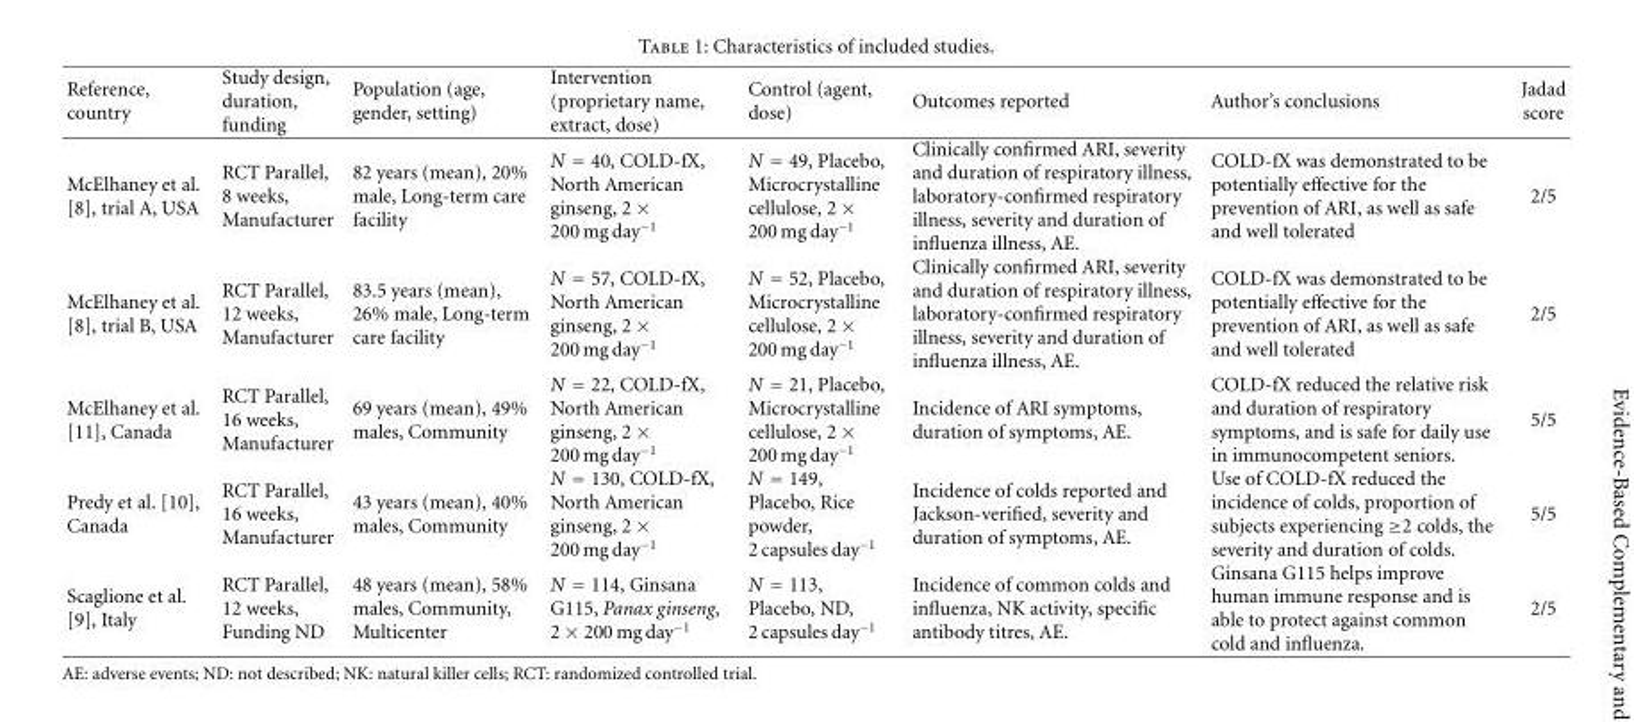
<table><thead><tr><td>Reference, country</td><td>Study design, duration, funding</td><td>Population (age, gender, setting)</td><td>Intervention (proprietary name, extract, dose)</td><td>Control (agent, dose)</td><td>Outcomes reported</td><td>Author’s conclusions</td><td>Jadad score</td></tr></thead><tbody><tr><td>McElhaney et al. [8], trial A, USA</td><td>RCT Parallel, 8 weeks, Manufacturer</td><td>82 years (mean), 20% male, Long-term care facility</td><td>N = 40, COLD-fX, North American ginseng, 2 × 200 mg day<sup>−1</sup></td><td>N = 49, Placebo, Microcrystalline cellulose, 2 × 200 mg day<sup>−1</sup></td><td>Clinically confirmed ARI, severity and duration of respiratory illness, laboratory-confirmed respiratory illness, severity and duration of influenza illness, AE.</td><td>COLD-fX was demonstrated to be potentially effective for the prevention of ARI, as well as safe and well tolerated</td><td>2/5</td></tr><tr><td>McElhaney et al. [8], trial B, USA</td><td>RCT Parallel, 12 weeks, Manufacturer</td><td>83.5 years (mean), 26% male, Long-term care facility</td><td>N = 57, COLD-fX, North American ginseng, 2 × 200 mg day<sup>−1</sup></td><td>N = 52, Placebo, Microcrystalline cellulose, 2 × 200 mg day<sup>−1</sup></td><td>Clinically confirmed ARI, severity and duration of respiratory illness, laboratory-confirmed respiratory illness, severity and duration of influenza illness, AE.</td><td>COLD-fX was demonstrated to be potentially effective for the prevention of ARI, as well as safe and well tolerated</td><td>2/5</td></tr><tr><td>McElhaney et al. [11], Canada</td><td>RCT Parallel, 16 weeks, Manufacturer</td><td>69 years (mean), 49% males, Community</td><td>N = 22, COLD-fX, North American ginseng, 2 × 200 mg day<sup>−1</sup></td><td>N = 21, Placebo, Microcrystalline cellulose, 2 × 200 mg day<sup>−1</sup></td><td>Incidence of ARI symptoms, duration of symptoms, AE.</td><td>COLD-fX reduced the relative risk and duration of respiratory symptoms, and is safe for daily use in immunocompetent seniors.</td><td>5/5</td></tr><tr><td>Predy et al. [10], Canada</td><td>RCT Parallel, 16 weeks, Manufacturer</td><td>43 years (mean), 40% males, Community</td><td>N = 130, COLD-fX, North American ginseng, 2 × 200 mg day<sup>−1</sup></td><td>N = 149, Placebo, Rice powder, 2 capsules day<sup>−1</sup></td><td>Incidence of colds reported and Jackson-verified, severity and duration of symptoms, AE.</td><td>Use of COLD-fX reduced the incidence of colds, proportion of subjects experiencing ≥2 colds, the severity and duration of colds.</td><td>5/5</td></tr><tr><td>Scaglione et al. [9], Italy</td><td>RCT Parallel, 12 weeks, Funding ND</td><td>48 years (mean), 58% males, Community, Multicenter</td><td>N = 114, Ginsana G115, Panax ginseng, 2 × 200 mg day<sup>−1</sup></td><td>N = 113, Placebo, ND, 2 capsules day<sup>−1</sup></td><td>Incidence of common colds and influenza, NK activity, specific antibody titres, AE.</td><td>Ginsana G115 helps improve human immune response and is able to protect against common cold and influenza.</td><td>2/5</td></tr></tbody></table>